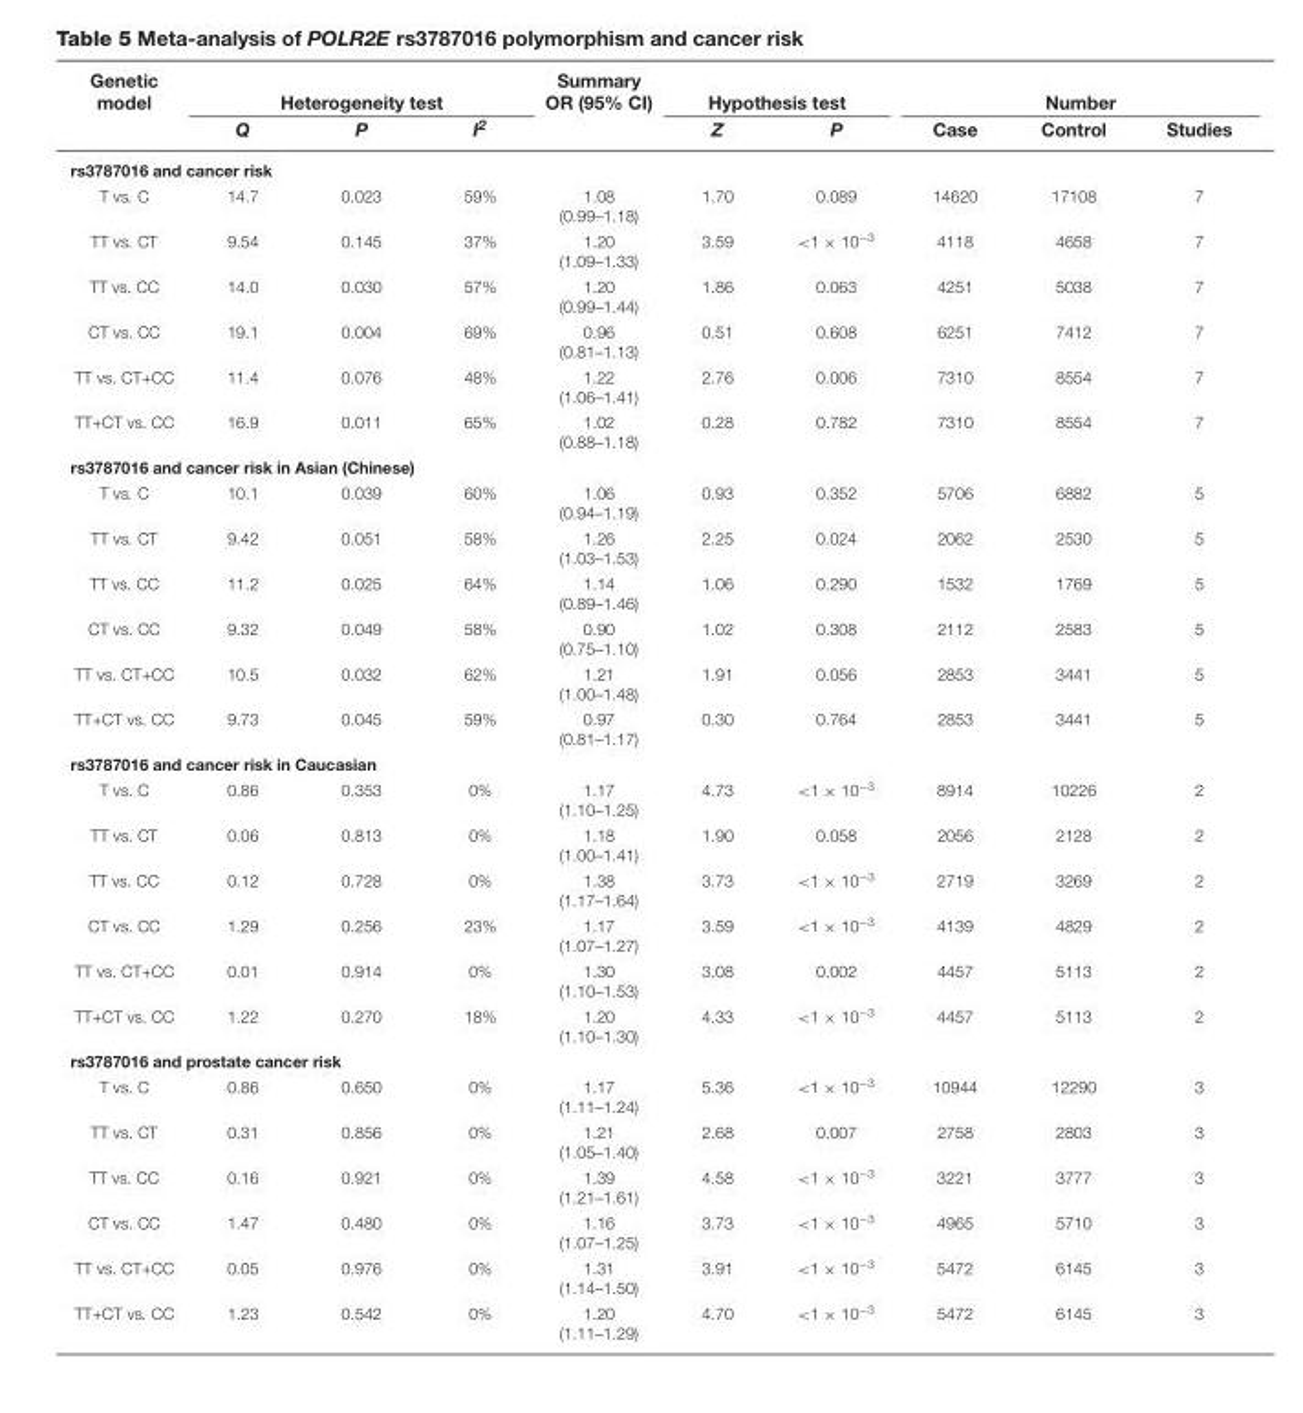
<table><thead><tr><td rowspan="2">Genetic model</td><td colspan="3">Heterogeneity test</td><td rowspan="2">Summary OR (95% CI)</td><td colspan="2">Hypothesis test</td><td colspan="3">Number</td></tr><tr><td>Q</td><td>P</td><td>I<sup>2</sup></td><td>Z</td><td>P</td><td>Case</td><td>Control</td><td>Studies</td></tr></thead><tbody><tr><td colspan="10">rs3787016 and cancer risk</td></tr><tr><td>T vs. C</td><td>14.7</td><td>0.023</td><td>59%</td><td>1.08 (0.99–1.18)</td><td>1.70</td><td>0.089</td><td>14620</td><td>17108</td><td>7</td></tr><tr><td>TT vs. CT</td><td>9.54</td><td>0.145</td><td>37%</td><td>1.20 (1.09–1.33)</td><td>3.59</td><td>&lt;1 × 10<sup>−3</sup></td><td>4118</td><td>4658</td><td>7</td></tr><tr><td>TT vs. CC</td><td>14.0</td><td>0.030</td><td>57%</td><td>1.20 (0.99–1.44)</td><td>1.86</td><td>0.063</td><td>4251</td><td>5038</td><td>7</td></tr><tr><td>CT vs. CC</td><td>19.1</td><td>0.004</td><td>69%</td><td>0.96 (0.81–1.13)</td><td>0.51</td><td>0.608</td><td>6251</td><td>7412</td><td>7</td></tr><tr><td>TT vs. CT+CC</td><td>11.4</td><td>0.076</td><td>48%</td><td>1.22 (1.06–1.41)</td><td>2.76</td><td>0.006</td><td>7310</td><td>8554</td><td>7</td></tr><tr><td>TT+CT vs. CC</td><td>16.9</td><td>0.011</td><td>65%</td><td>1.02 (0.88–1.18)</td><td>0.28</td><td>0.782</td><td>7310</td><td>8554</td><td>7</td></tr><tr><td colspan="10">rs3787016 and cancer risk in Asian (Chinese)</td></tr><tr><td>T vs. C</td><td>10.1</td><td>0.039</td><td>60%</td><td>1.06 (0.94–1.19)</td><td>0.93</td><td>0.352</td><td>5706</td><td>6882</td><td>5</td></tr><tr><td>TT vs. CT</td><td>9.42</td><td>0.051</td><td>58%</td><td>1.26 (1.03–1.53)</td><td>2.25</td><td>0.024</td><td>2062</td><td>2530</td><td>5</td></tr><tr><td>TT vs. CC</td><td>11.2</td><td>0.025</td><td>64%</td><td>1.14 (0.89–1.46)</td><td>1.06</td><td>0.290</td><td>1532</td><td>1769</td><td>5</td></tr><tr><td>CT vs. CC</td><td>9.32</td><td>0.049</td><td>58%</td><td>0.90 (0.75–1.10)</td><td>1.02</td><td>0.308</td><td>2112</td><td>2583</td><td>5</td></tr><tr><td>TT vs. CT+CC</td><td>10.5</td><td>0.032</td><td>62%</td><td>1.21 (1.00–1.48)</td><td>1.91</td><td>0.056</td><td>2853</td><td>3441</td><td>5</td></tr><tr><td>TT+CT vs. CC</td><td>9.73</td><td>0.045</td><td>59%</td><td>0.97 (0.81–1.17)</td><td>0.30</td><td>0.764</td><td>2853</td><td>3441</td><td>5</td></tr><tr><td colspan="10">rs3787016 and cancer risk in Caucasian</td></tr><tr><td>T vs. C</td><td>0.86</td><td>0.353</td><td>0%</td><td>1.17 (1.10–1.25)</td><td>4.73</td><td>&lt;1 × 10<sup>−3</sup></td><td>8914</td><td>10226</td><td>2</td></tr><tr><td>TT vs. CT</td><td>0.06</td><td>0.813</td><td>0%</td><td>1.18 (1.00–1.41)</td><td>1.90</td><td>0.058</td><td>2056</td><td>2128</td><td>2</td></tr><tr><td>TT vs. CC</td><td>0.12</td><td>0.728</td><td>0%</td><td>1.38 (1.17–1.64)</td><td>3.73</td><td>&lt;1 × 10<sup>−3</sup></td><td>2719</td><td>3269</td><td>2</td></tr><tr><td>CT vs. CC</td><td>1.29</td><td>0.256</td><td>23%</td><td>1.17 (1.07–1.27)</td><td>3.59</td><td>&lt;1 × 10<sup>−3</sup></td><td>4139</td><td>4829</td><td>2</td></tr><tr><td>TT vs. CT+CC</td><td>0.01</td><td>0.914</td><td>0%</td><td>1.30 (1.10–1.53)</td><td>3.08</td><td>0.002</td><td>4457</td><td>5113</td><td>2</td></tr><tr><td>TT+CT vs. CC</td><td>1.22</td><td>0.270</td><td>18%</td><td>1.20 (1.10–1.30)</td><td>4.33</td><td>&lt;1 × 10<sup>−3</sup></td><td>4457</td><td>5113</td><td>2</td></tr><tr><td colspan="10">rs3787016 and prostate cancer risk</td></tr><tr><td>T vs. C</td><td>0.86</td><td>0.650</td><td>0%</td><td>1.17 (1.11–1.24)</td><td>5.36</td><td>&lt;1 × 10<sup>−3</sup></td><td>10944</td><td>12290</td><td>3</td></tr><tr><td>TT vs. CT</td><td>0.31</td><td>0.856</td><td>0%</td><td>1.21 (1.05–1.40)</td><td>2.68</td><td>0.007</td><td>2758</td><td>2803</td><td>3</td></tr><tr><td>TT vs. CC</td><td>0.16</td><td>0.921</td><td>0%</td><td>1.39 (1.21–1.61)</td><td>4.58</td><td>&lt;1 × 10<sup>−3</sup></td><td>3221</td><td>3777</td><td>3</td></tr><tr><td>CT vs. CC</td><td>1.47</td><td>0.480</td><td>0%</td><td>1.16 (1.07–1.25)</td><td>3.73</td><td>&lt;1 × 10<sup>−3</sup></td><td>4965</td><td>5710</td><td>3</td></tr><tr><td>TT vs. CT+CC</td><td>0.05</td><td>0.976</td><td>0%</td><td>1.31 (1.14–1.50)</td><td>3.91</td><td>&lt;1 × 10<sup>−3</sup></td><td>5472</td><td>6145</td><td>3</td></tr><tr><td>TT+CT vs. CC</td><td>1.23</td><td>0.542</td><td>0%</td><td>1.20 (1.11–1.29)</td><td>4.70</td><td>&lt;1 × 10<sup>−3</sup></td><td>5472</td><td>6145</td><td>3</td></tr></tbody></table>